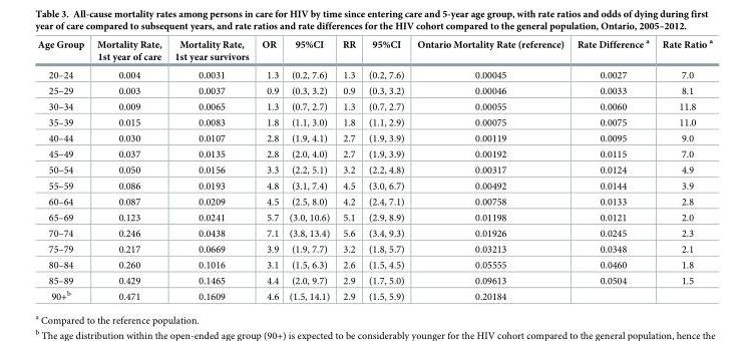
<table><thead><tr><td>Age Group</td><td>Mortality Rate, 1st year of care</td><td>Mortality Rate, 1st year survivors</td><td>OR</td><td>95%CI</td><td>RR</td><td>95%CI</td><td>Ontario Mortality Rate (reference)</td><td>Rate Difference <sup>a</sup></td><td>Rate Ratio <sup>a</sup></td></tr></thead><tbody><tr><td>20–24</td><td>0.004</td><td>0.0031</td><td>1.3</td><td>(0.2, 7.6)</td><td>1.3</td><td>(0.2, 7.6)</td><td>0.00045</td><td>0.0027</td><td>7.0</td></tr><tr><td>25–29</td><td>0.003</td><td>0.0037</td><td>0.9</td><td>(0.3, 3.2)</td><td>0.9</td><td>(0.3, 3.2)</td><td>0.00046</td><td>0.0033</td><td>8.1</td></tr><tr><td>30–34</td><td>0.009</td><td>0.0065</td><td>1.3</td><td>(0.7, 2.7)</td><td>1.3</td><td>(0.7, 2.7)</td><td>0.00055</td><td>0.0060</td><td>11.8</td></tr><tr><td>35–39</td><td>0.015</td><td>0.0083</td><td>1.8</td><td>(1.1, 3.0)</td><td>1.8</td><td>(1.1, 2.9)</td><td>0.00075</td><td>0.0075</td><td>11.0</td></tr><tr><td>40–44</td><td>0.030</td><td>0.0107</td><td>2.8</td><td>(1.9, 4.1)</td><td>2.7</td><td>(1.9, 3.9)</td><td>0.00119</td><td>0.0095</td><td>9.0</td></tr><tr><td>45–49</td><td>0.037</td><td>0.0135</td><td>2.8</td><td>(2.0, 4.0)</td><td>2.7</td><td>(1.9, 3.9)</td><td>0.00192</td><td>0.0115</td><td>7.0</td></tr><tr><td>50–54</td><td>0.050</td><td>0.0156</td><td>3.3</td><td>(2.2, 5.1)</td><td>3.2</td><td>(2.2, 4.8)</td><td>0.00317</td><td>0.0124</td><td>4.9</td></tr><tr><td>55–59</td><td>0.086</td><td>0.0193</td><td>4.8</td><td>(3.1, 7.4)</td><td>4.5</td><td>(3.0, 6.7)</td><td>0.00492</td><td>0.0144</td><td>3.9</td></tr><tr><td>60–64</td><td>0.087</td><td>0.0209</td><td>4.5</td><td>(2.5, 8.0)</td><td>4.2</td><td>(2.4, 7.1)</td><td>0.00758</td><td>0.0133</td><td>2.8</td></tr><tr><td>65–69</td><td>0.123</td><td>0.0241</td><td>5.7</td><td>(3.0, 10.6)</td><td>5.1</td><td>(2.9, 8.9)</td><td>0.01198</td><td>0.0121</td><td>2.0</td></tr><tr><td>70–74</td><td>0.246</td><td>0.0438</td><td>7.1</td><td>(3.8, 13.4)</td><td>5.6</td><td>(3.4, 9.3)</td><td>0.01926</td><td>0.0245</td><td>2.3</td></tr><tr><td>75–79</td><td>0.217</td><td>0.0669</td><td>3.9</td><td>(1.9, 7.7)</td><td>3.2</td><td>(1.8, 5.7)</td><td>0.03213</td><td>0.0348</td><td>2.1</td></tr><tr><td>80–84</td><td>0.260</td><td>0.1016</td><td>3.1</td><td>(1.5, 6.3)</td><td>2.6</td><td>(1.5, 4.5)</td><td>0.05555</td><td>0.0460</td><td>1.8</td></tr><tr><td>85–89</td><td>0.429</td><td>0.1465</td><td>4.4</td><td>(2.0, 9.7)</td><td>2.9</td><td>(1.7, 5.0)</td><td>0.09613</td><td>0.0504</td><td>1.5</td></tr><tr><td>90+<sup>b</sup></td><td>0.471</td><td>0.1609</td><td>4.6</td><td>(1.5, 14.1)</td><td>2.9</td><td>(1.5, 5.9)</td><td>0.20184</td><td></td><td></td></tr></tbody></table>